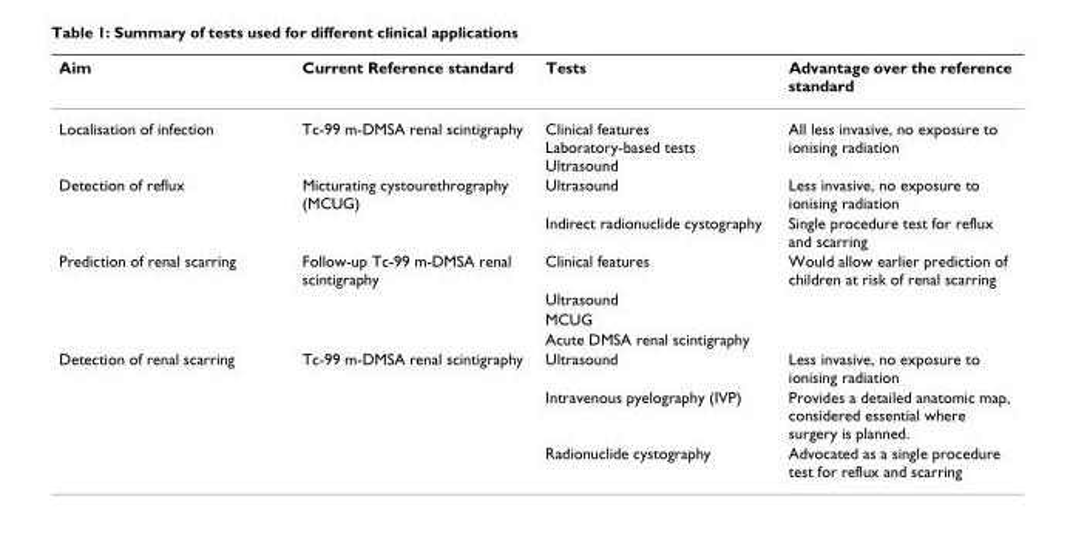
<table><thead><tr><td>Aim</td><td>Current Reference standard</td><td>Tests</td><td>Advantage over the reference standard</td></tr></thead><tbody><tr><td>Localisation of infection</td><td>Tc-99 m-DMSA renal scintigraphy</td><td>Clinical features Laboratory-based tests Ultrasound</td><td>All less invasive, no exposure to ionising radiation</td></tr><tr><td rowspan="2">Detection of reflux</td><td>Micturating cystourethrography (MCUG)</td><td>Ultrasound</td><td>Less invasive, no exposure to ionising radiation</td></tr><tr><td></td><td>Indirect radionuclide cystography</td><td>Single procedure test for reflux and scarring</td></tr><tr><td rowspan="4">Prediction of renal scarring</td><td>Follow-up Tc-99 m-DMSA renal scintigraphy</td><td>Clinical features</td><td>Would allow earlier prediction of children at risk of renal scarring</td></tr><tr><td></td><td>Ultrasound</td><td></td></tr><tr><td></td><td>MCUG</td><td></td></tr><tr><td></td><td>Acute DMSA renal scintigraphy</td><td></td></tr><tr><td rowspan="3">Detection of renal scarring</td><td>Tc-99 m-DMSA renal scintigraphy</td><td>Ultrasound</td><td>Less invasive, no exposure to ionising radiation</td></tr><tr><td></td><td>Intravenous pyelography (IVP)</td><td>Provides a detailed anatomic map, considered essential where surgery is planned.</td></tr><tr><td></td><td>Radionuclide cystography</td><td>Advocated as a single procedure test for reflux and scarring</td></tr></tbody></table>